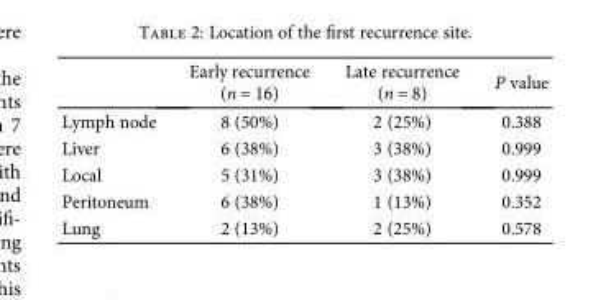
<table><thead><tr><td></td><td>Early recurrence (n = 16)</td><td>Late recurrence (n = 8)</td><td>P value</td></tr></thead><tbody><tr><td>Lymph node</td><td>8 (50%)</td><td>2 (25%)</td><td>0.388</td></tr><tr><td>Liver</td><td>6 (38%)</td><td>3 (38%)</td><td>0.999</td></tr><tr><td>Local</td><td>5 (31%)</td><td>3 (38%)</td><td>0.999</td></tr><tr><td>Peritoneum</td><td>6 (38%)</td><td>1 (13%)</td><td>0.352</td></tr><tr><td>Lung</td><td>2 (13%)</td><td>2 (25%)</td><td>0.578</td></tr></tbody></table>